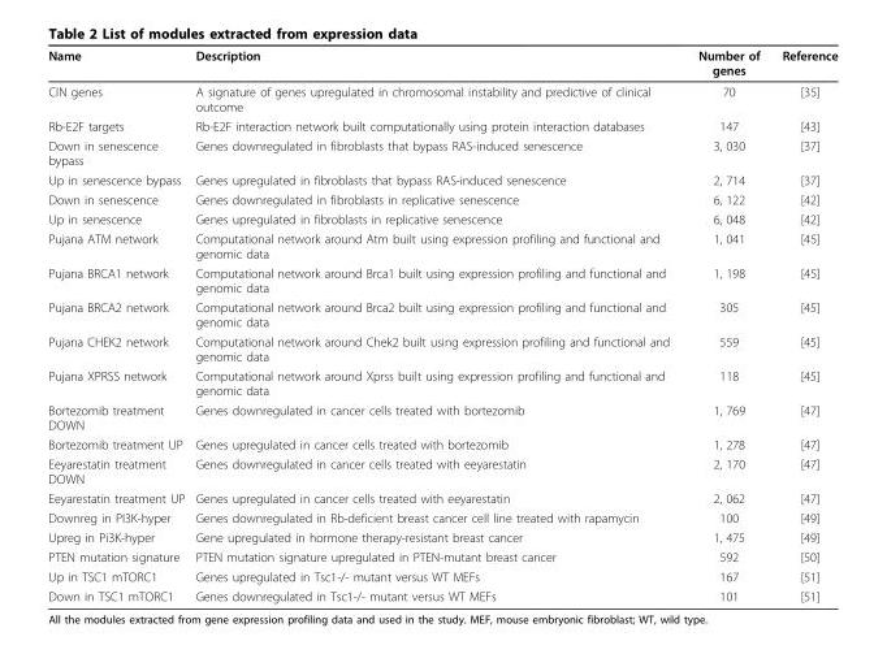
<table><thead><tr><td>Name</td><td>Description</td><td>Number of genes</td><td>Reference</td></tr></thead><tbody><tr><td>CIN genes</td><td>A signature of genes upregulated in chromosomal instability and predictive of clinical outcome</td><td>70</td><td>[35]</td></tr><tr><td>Rb-E2F targets</td><td>Rb-E2F interaction network built computationally using protein interaction databases</td><td>147</td><td>[43]</td></tr><tr><td>Down in senescence bypass</td><td>Genes downregulated in fibroblasts that bypass RAS-induced senescence</td><td>3, 030</td><td>[37]</td></tr><tr><td>Up in senescence bypass</td><td>Genes upregulated in fibroblasts that bypass RAS-induced senescence</td><td>2, 714</td><td>[37]</td></tr><tr><td>Down in senescence</td><td>Genes downregulated in fibroblasts in replicative senescence</td><td>6, 122</td><td>[42]</td></tr><tr><td>Up in senescence</td><td>Genes upregulated in fibroblasts in replicative senescence</td><td>6, 048</td><td>[42]</td></tr><tr><td>Pujana ATM network</td><td>Computational network around Atm built using expression profiling and functional and genomic data</td><td>1, 041</td><td>[45]</td></tr><tr><td>Pujana BRCA1 network</td><td>Computational network around Brca1 built using expression profiling and functional and genomic data</td><td>1, 198</td><td>[45]</td></tr><tr><td>Pujana BRCA2 network</td><td>Computational network around Brca2 built using expression profiling and functional and genomic data</td><td>305</td><td>[45]</td></tr><tr><td>Pujana CHEK2 network</td><td>Computational network around Chek2 built using expression profiling and functional and genomic data</td><td>559</td><td>[45]</td></tr><tr><td>Pujana XPRSS network</td><td>Computational network around Xprss built using expression profiling and functional and genomic data</td><td>118</td><td>[45]</td></tr><tr><td>Bortezomib treatment DOWN</td><td>Genes downregulated in cancer cells treated with bortezomib</td><td>1, 769</td><td>[47]</td></tr><tr><td>Bortezomib treatment UP</td><td>Genes upregulated in cancer cells treated with bortezomib</td><td>1, 278</td><td>[47]</td></tr><tr><td>Eeyarestatin treatment DOWN</td><td>Genes downregulated in cancer cells treated with eeyarestatin</td><td>2, 170</td><td>[47]</td></tr><tr><td>Eeyarestatin treatment UP</td><td>Genes upregulated in cancer cells treated with eeyarestatin</td><td>2, 062</td><td>[47]</td></tr><tr><td>Downreg in PI3K-hyper</td><td>Genes downregulated in Rb-deficient breast cancer cell line treated with rapamycin</td><td>100</td><td>[49]</td></tr><tr><td>Upreg in Pi3K-hyper</td><td>Gene upregulated in hormone therapy-resistant breast cancer</td><td>1, 475</td><td>[49]</td></tr><tr><td>PTEN mutation signature</td><td>PTEN mutation signature upregulated in PTEN-mutant breast cancer</td><td>592</td><td>[50]</td></tr><tr><td>Up in TSC1 mTORC1</td><td>Genes upregulated in Tsc1-/- mutant versus WT MEFs</td><td>167</td><td>[51]</td></tr><tr><td>Down in TSC1 mTORC1</td><td>Genes downregulated in Tsc1-/- mutant versus WT MEFs</td><td>101</td><td>[51]</td></tr></tbody></table>